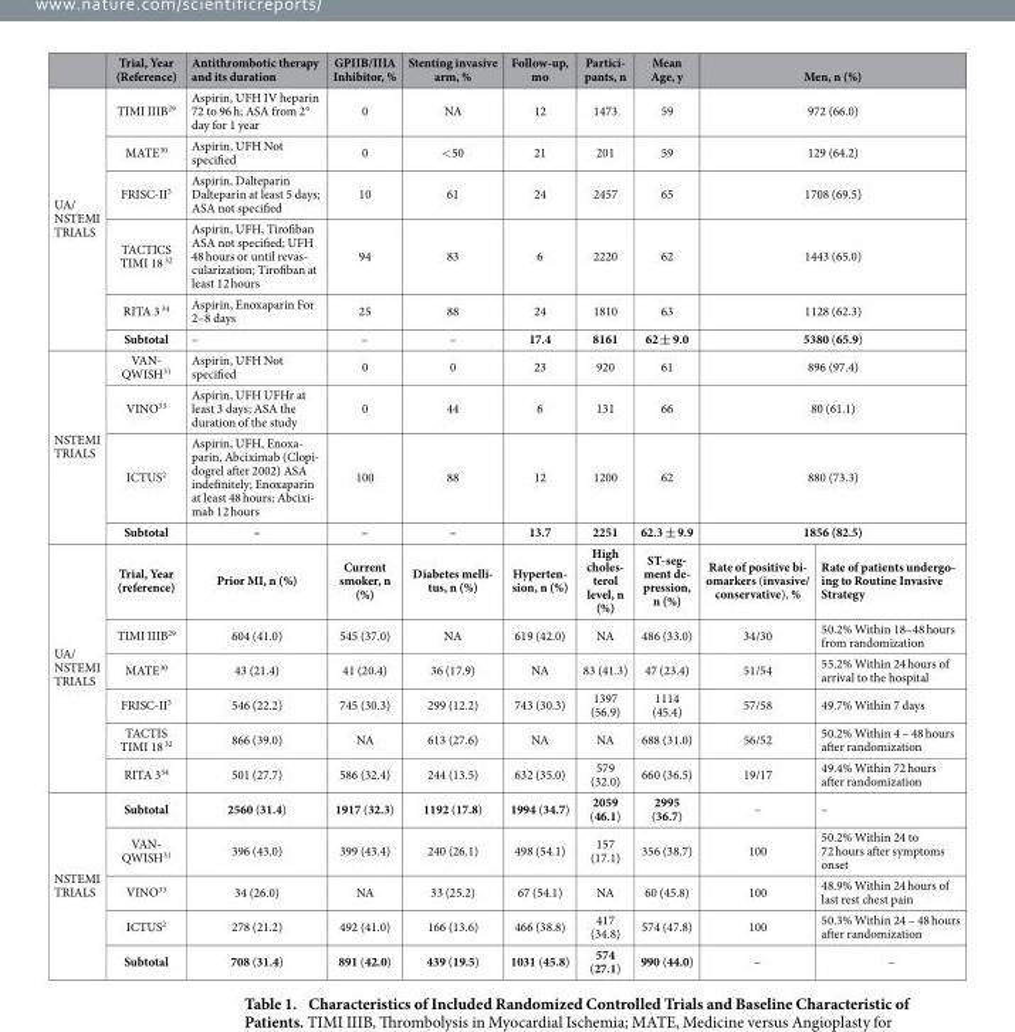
<table><thead><tr><td></td><td>Trial, Year (Reference)</td><td>Antithrombotic therapy and its duration</td><td>GPIIB/IIIA Inhibitor, %</td><td>Stenting invasive arm, %</td><td>Follow-up, mo</td><td>Partici- pants, n</td><td>Mean Age, y</td><td colspan="2">Men, n (%)</td></tr></thead><tbody><tr><td rowspan="6">UA/ NSTEMI TRIALS</td><td>TIMI IIIB<sup>29</sup></td><td>Aspirin, UFH IV heparin 72 to 96 h; ASA from 2° day for 1 year</td><td>0</td><td>NA</td><td>12</td><td>1473</td><td>59</td><td colspan="2">972 (66.0)</td></tr><tr><td>MATE<sup>30</sup></td><td>Aspirin, UFH Not specified</td><td>0</td><td>&lt; 50</td><td>21</td><td>201</td><td>59</td><td colspan="2">129 (64.2)</td></tr><tr><td>FRISC-II<sup>3</sup></td><td>Aspirin, Dalteparin Dalteparin at least 5 days; ASA not specified</td><td>10</td><td>61</td><td>24</td><td>2457</td><td>65</td><td colspan="2">1708 (69.5)</td></tr><tr><td>TACTICS TIMI 18 32</td><td>Aspirin, UFH, Tirofiban ASA not specified; UFH 48 hours or until revas- cularization; Tirofiban at least 12 hours</td><td>94</td><td>83</td><td>6</td><td>2220</td><td>62</td><td colspan="2">1443 (65.0)</td></tr><tr><td>RITA 3 34</td><td>Aspirin, Enoxaparin For 2–8 days</td><td>25</td><td>88</td><td>24</td><td>1810</td><td>63</td><td colspan="2">1128 (62.3)</td></tr><tr><td>Subtotal</td><td>–</td><td>–</td><td>–</td><td>17.4</td><td>8161</td><td>62 ± 9.0</td><td colspan="2">5380 (65.9)</td></tr><tr><td rowspan="4">NSTEMI TRIALS</td><td>VAN- QWISH31</td><td>Aspirin, UFH Not specified</td><td>0</td><td>0</td><td>23</td><td>920</td><td>61</td><td colspan="2">896 (97.4)</td></tr><tr><td>VINO<sup>33</sup></td><td>Aspirin, UFH UFHr at least 3 days; ASA the duration of the study</td><td>0</td><td>44</td><td>6</td><td>131</td><td>66</td><td colspan="2">80 (61.1)</td></tr><tr><td>ICTUS<sup>2</sup></td><td>Aspirin, UFH, Enoxa- parin, Abciximab (Clopi- dogrel after 2002) ASA indefinitely; Enoxaparin at least 48 hours; Abcixi- mab 12 hours</td><td>100</td><td>88</td><td>12</td><td>1200</td><td>62</td><td colspan="2">880 (73.3)</td></tr><tr><td>Subtotal</td><td>–</td><td>–</td><td>–</td><td>13.7</td><td>2251</td><td>62.3 ± 9.9</td><td colspan="2">1856 (82.5)</td></tr><tr><td rowspan="6">UA/ NSTEMI TRIALS</td><td>Trial, Year (reference)</td><td>Prior MI, n (%)</td><td>Current smoker, n (%)</td><td>Diabetes melli- tus, n (%)</td><td>Hyperten- sion, n (%)</td><td>High choles- terol level, n (%)</td><td>ST-seg- ment de- pression, n (%)</td><td>Rate of positive bi- omarkers (invasive/ conservative), %</td><td>Rate of patients undergo- ing to Routine Invasive Strategy</td></tr><tr><td>TIMI IIIB<sup>29</sup></td><td>604 (41.0)</td><td>545 (37.0)</td><td>NA</td><td>619 (42.0)</td><td>NA</td><td>486 (33.0)</td><td>34/30</td><td>50.2% Within 18–48 hours from randomization</td></tr><tr><td>MATE<sup>30</sup></td><td>43 (21.4)</td><td>41 (20.4)</td><td>36 (17.9)</td><td>NA</td><td>83 (41.3)</td><td>47 (23.4)</td><td>51/54</td><td>55.2% Within 24 hours of arrival to the hospital</td></tr><tr><td>FRISC-II<sup>3</sup></td><td>546 (22.2)</td><td>745 (30.3)</td><td>299 (12.2)</td><td>743 (30.3)</td><td>1397 (56.9)</td><td>1114 (45.4)</td><td>57/58</td><td>49.7% Within 7 days</td></tr><tr><td>TACTIS TIMI 18 32</td><td>866 (39.0)</td><td>NA</td><td>613 (27.6)</td><td>NA</td><td>NA</td><td>688 (31.0)</td><td>56/52</td><td>50.2% Within 4 – 48 hours after randomization</td></tr><tr><td>RITA 3<sup>34</sup></td><td>501 (27.7)</td><td>586 (32.4)</td><td>244 (13.5)</td><td>632 (35.0)</td><td>579 (32.0)</td><td>660 (36.5)</td><td>19/17</td><td>49.4% Within 72 hours after randomization</td></tr><tr><td rowspan="5">NSTEMI TRIALS</td><td>Subtotal</td><td>2560 (31.4)</td><td>1917 (32.3)</td><td>1192 (17.8)</td><td>1994 (34.7)</td><td>2059 (46.1)</td><td>2995 (36.7)</td><td>–</td><td>–</td></tr><tr><td>VAN- QWISH31</td><td>396 (43.0)</td><td>399 (43.4)</td><td>240 (26.1)</td><td>498 (54.1)</td><td>157 (17.1)</td><td>356 (38.7)</td><td>100</td><td>50.2% Within 24 to 72 hours after symptoms onset</td></tr><tr><td>VINO<sup>33</sup></td><td>34 (26.0)</td><td>NA</td><td>33 (25.2)</td><td>67 (54.1)</td><td>NA</td><td>60 (45.8)</td><td>100</td><td>48.9% Within 24 hours of last rest chest pain</td></tr><tr><td>ICTUS<sup>2</sup></td><td>278 (21.2)</td><td>492 (41.0)</td><td>166 (13.6)</td><td>466 (38.8)</td><td>417 (34.8)</td><td>574 (47.8)</td><td>100</td><td>50.3% Within 24 – 48 hours after randomization</td></tr><tr><td>Subtotal</td><td>708 (31.4)</td><td>891 (42.0)</td><td>439 (19.5)</td><td>1031 (45.8)</td><td>574 (27.1)</td><td>990 (44.0)</td><td>–</td><td>–</td></tr></tbody></table>